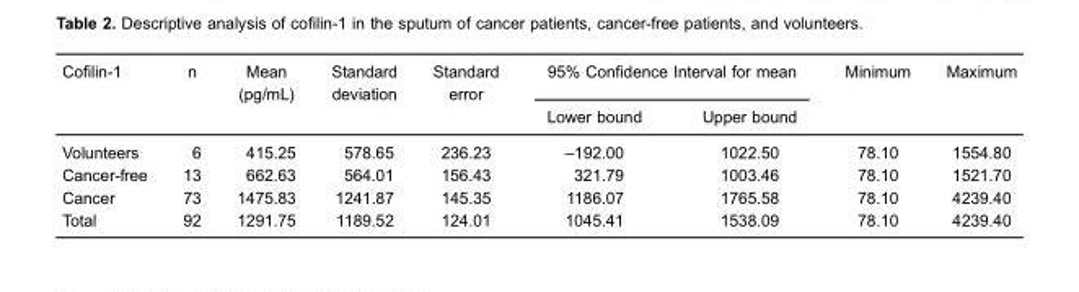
<table><thead><tr><td rowspan="2">Cofilin-1</td><td rowspan="2">n</td><td rowspan="2">Mean (pg/mL)</td><td rowspan="2">Standard deviation</td><td rowspan="2">Standard error</td><td colspan="2">95% Confidence Interval for mean</td><td rowspan="2">Minimum</td><td rowspan="2">Maximum</td></tr><tr><td>Lower bound</td><td>Upper bound</td></tr></thead><tbody><tr><td>Volunteers</td><td>6</td><td>415.25</td><td>578.65</td><td>236.23</td><td>–192.00</td><td>1022.50</td><td>78.10</td><td>1554.80</td></tr><tr><td>Cancer-free</td><td>13</td><td>662.63</td><td>564.01</td><td>156.43</td><td>321.79</td><td>1003.46</td><td>78.10</td><td>1521.70</td></tr><tr><td>Cancer</td><td>73</td><td>1475.83</td><td>1241.87</td><td>145.35</td><td>1186.07</td><td>1765.58</td><td>78.10</td><td>4239.40</td></tr><tr><td>Total</td><td>92</td><td>1291.75</td><td>1189.52</td><td>124.01</td><td>1045.41</td><td>1538.09</td><td>78.10</td><td>4239.40</td></tr></tbody></table>